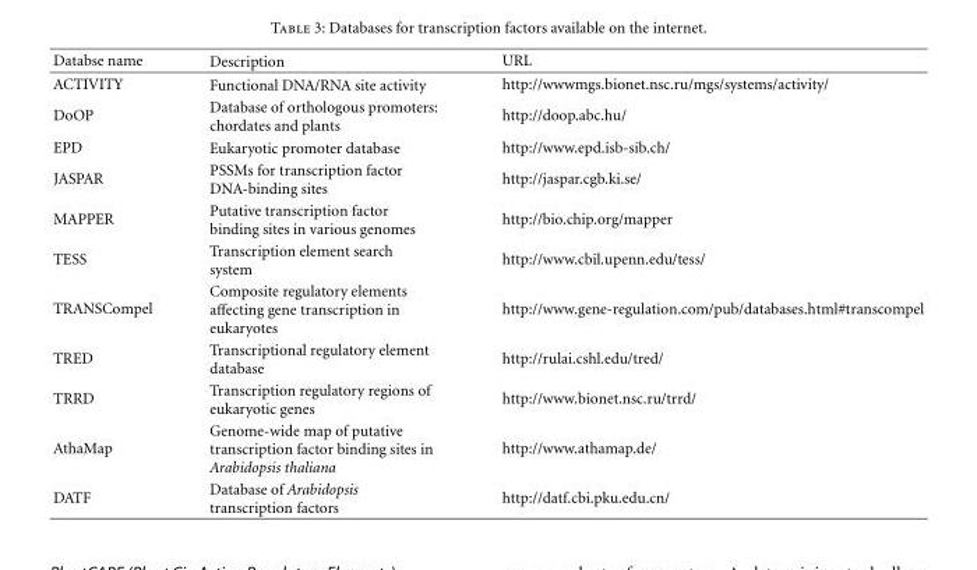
<table><thead><tr><td>Databse name</td><td>Description</td><td>URL</td></tr></thead><tbody><tr><td>ACTIVITY</td><td>Functional DNA/RNA site activity</td><td>http://wwwmgs.bionet.nsc.ru/mgs/systems/activity/</td></tr><tr><td>DoOP</td><td>Database of orthologous promoters: chordates and plants</td><td>http://doop.abc.hu/</td></tr><tr><td>EPD</td><td>Eukaryotic promoter database</td><td>http://www.epd.isb-sib.ch/</td></tr><tr><td>JASPAR</td><td>PSSMs for transcription factor DNA-binding sites</td><td>http://jaspar.cgb.ki.se/</td></tr><tr><td>MAPPER</td><td>Putative transcription factor binding sites in various genomes</td><td>http://bio.chip.org/mapper</td></tr><tr><td>TESS</td><td>Transcription element search system</td><td>http://www.cbil.upenn.edu/tess/</td></tr><tr><td>TRANSCompel</td><td>Composite regulatory elements affecting gene transcription in eukaryotes</td><td>http://www.gene-regulation.com/pub/databases.html#transcompel</td></tr><tr><td>TRED</td><td>Transcriptional regulatory element database</td><td>http://rulai.cshl.edu/tred/</td></tr><tr><td>TRRD</td><td>Transcription regulatory regions of eukaryotic genes</td><td>http://www.bionet.nsc.ru/trrd/</td></tr><tr><td>AthaMap</td><td>Genome-wide map of putative transcription factor binding sites in Arabidopsis thaliana</td><td>http://www.athamap.de/</td></tr><tr><td>DATF</td><td>Database of Arabidopsis transcription factors</td><td>http://datf.cbi.pku.edu.cn/</td></tr></tbody></table>